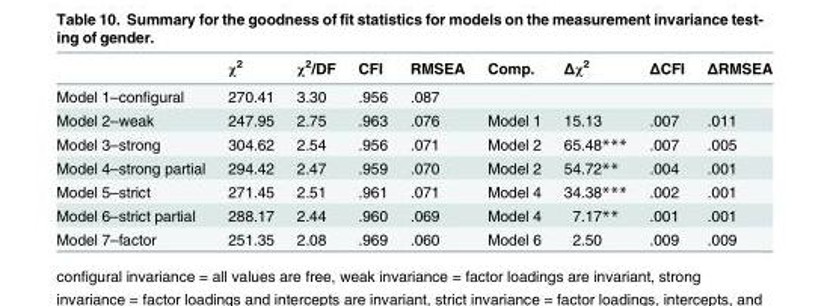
<table><thead><tr><td></td><td>χ<sup>2</sup></td><td>χ<sup>2</sup>/DF</td><td>CFI</td><td>RMSEA</td><td>Comp.</td><td>Δχ<sup>2</sup></td><td>ΔCFI</td><td>ΔRMSEA</td></tr></thead><tbody><tr><td>Model 1–configural</td><td>270.41</td><td>3.30</td><td>.956</td><td>.087</td><td></td><td></td><td></td><td></td></tr><tr><td>Model 2–weak</td><td>247.95</td><td>2.75</td><td>.963</td><td>.076</td><td>Model 1</td><td>15.13</td><td>.007</td><td>.011</td></tr><tr><td>Model 3–strong</td><td>304.62</td><td>2.54</td><td>.956</td><td>.071</td><td>Model 2</td><td>65.48***</td><td>.007</td><td>.005</td></tr><tr><td>Model 4–strong partial</td><td>294.42</td><td>2.47</td><td>.959</td><td>.070</td><td>Model 2</td><td>54.72**</td><td>.004</td><td>.001</td></tr><tr><td>Model 5–strict</td><td>271.45</td><td>2.51</td><td>.961</td><td>.071</td><td>Model 4</td><td>34.38***</td><td>.002</td><td>.001</td></tr><tr><td>Model 6–strict partial</td><td>288.17</td><td>2.44</td><td>.960</td><td>.069</td><td>Model 4</td><td>7.17**</td><td>.001</td><td>.001</td></tr><tr><td>Model 7–factor</td><td>251.35</td><td>2.08</td><td>.969</td><td>.060</td><td>Model 6</td><td>2.50</td><td>.009</td><td>.009</td></tr></tbody></table>